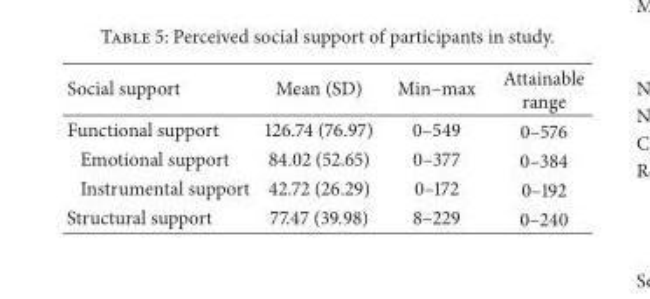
<table><thead><tr><td>Social support</td><td>Mean (SD)</td><td>Min–max</td><td>Attainable range</td></tr></thead><tbody><tr><td>Functional support</td><td>126.74 (76.97)</td><td>0–549</td><td>0–576</td></tr><tr><td>Emotional support</td><td>84.02 (52.65)</td><td>0–377</td><td>0–384</td></tr><tr><td>Instrumental support</td><td>42.72 (26.29)</td><td>0–172</td><td>0–192</td></tr><tr><td>Structural support</td><td>77.47 (39.98)</td><td>8–229</td><td>0–240</td></tr></tbody></table>